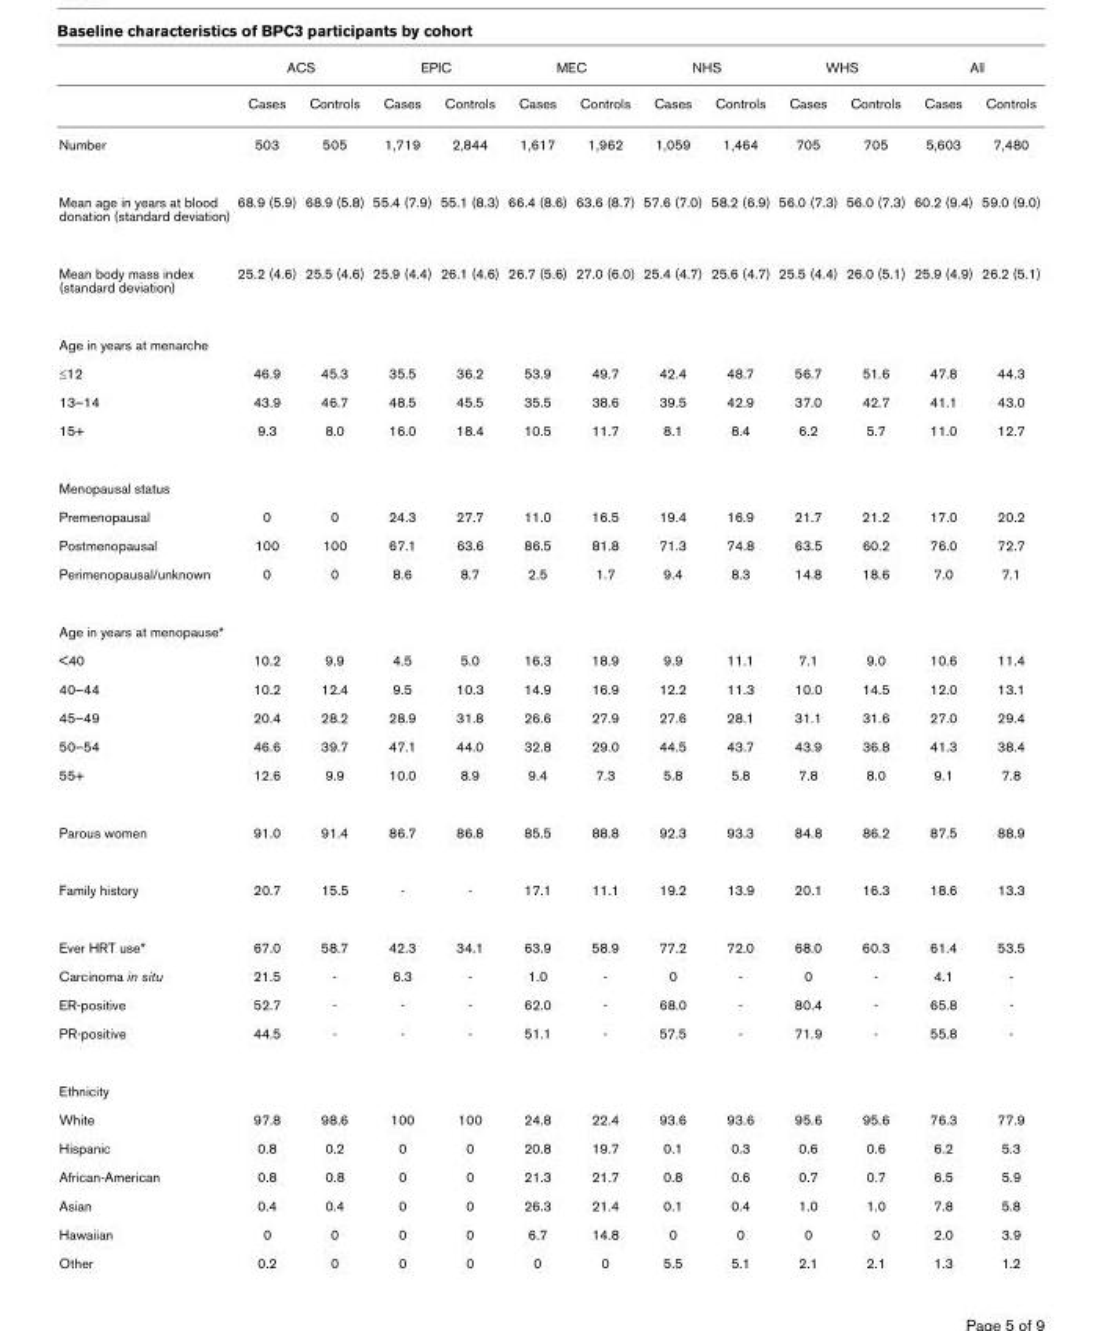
<table><thead><tr><td rowspan="2"></td><td colspan="2">ACS</td><td colspan="2">EPIC</td><td colspan="2">MEC</td><td colspan="2">NHS</td><td colspan="2">WHS</td><td colspan="2">All</td></tr><tr><td>Cases</td><td>Controls</td><td>Cases</td><td>Controls</td><td>Cases</td><td>Controls</td><td>Cases</td><td>Controls</td><td>Cases</td><td>Controls</td><td>Cases</td><td>Controls</td></tr></thead><tbody><tr><td>Number</td><td>503</td><td>505</td><td>1,719</td><td>2,844</td><td>1,617</td><td>1,962</td><td>1,059</td><td>1,464</td><td>705</td><td>705</td><td>5,603</td><td>7,480</td></tr><tr><td>Mean age in years at blood donation (standard deviation)</td><td>68.9 (5.9)</td><td>68.9 (5.8)</td><td>55.4 (7.9)</td><td>55.1 (8.3)</td><td>66.4 (8.6)</td><td>63.6 (8.7)</td><td>57.6 (7.0)</td><td>58.2 (6.9)</td><td>56.0 (7.3)</td><td>56.0 (7.3)</td><td>60.2 (9.4)</td><td>59.0 (9.0)</td></tr><tr><td>Mean body mass index (standard deviation)</td><td>25.2 (4.6)</td><td>25.5 (4.6)</td><td>25.9 (4.4)</td><td>26.1 (4.6)</td><td>26.7 (5.6)</td><td>27.0 (6.0)</td><td>25.4 (4.7)</td><td>25.6 (4.7)</td><td>25.5 (4.4)</td><td>26.0 (5.1)</td><td>25.9 (4.9)</td><td>26.2 (5.1)</td></tr><tr><td colspan="13">Age in years at menarche</td></tr><tr><td>≤12</td><td>46.9</td><td>45.3</td><td>35.5</td><td>36.2</td><td>53.9</td><td>49.7</td><td>42.4</td><td>48.7</td><td>56.7</td><td>51.6</td><td>47.8</td><td>44.3</td></tr><tr><td>13–14</td><td>43.9</td><td>46.7</td><td>48.5</td><td>45.5</td><td>35.5</td><td>38.6</td><td>39.5</td><td>42.9</td><td>37.0</td><td>42.7</td><td>41.1</td><td>43.0</td></tr><tr><td>15+</td><td>9.3</td><td>8.0</td><td>16.0</td><td>18.4</td><td>10.5</td><td>11.7</td><td>8.1</td><td>8.4</td><td>6.2</td><td>5.7</td><td>11.0</td><td>12.7</td></tr><tr><td colspan="13">Menopausal status</td></tr><tr><td>Premenopausal</td><td>0</td><td>0</td><td>24.3</td><td>27.7</td><td>11.0</td><td>16.5</td><td>19.4</td><td>16.9</td><td>21.7</td><td>21.2</td><td>17.0</td><td>20.2</td></tr><tr><td>Postmenopausal</td><td>100</td><td>100</td><td>67.1</td><td>63.6</td><td>86.5</td><td>81.8</td><td>71.3</td><td>74.8</td><td>63.5</td><td>60.2</td><td>76.0</td><td>72.7</td></tr><tr><td>Perimenopausal/unknown</td><td>0</td><td>0</td><td>8.6</td><td>8.7</td><td>2.5</td><td>1.7</td><td>9.4</td><td>8.3</td><td>14.8</td><td>18.6</td><td>7.0</td><td>7.1</td></tr><tr><td colspan="13">Age in years at menopause*</td></tr><tr><td>&lt;40</td><td>10.2</td><td>9.9</td><td>4.5</td><td>5.0</td><td>16.3</td><td>18.9</td><td>9.9</td><td>11.1</td><td>7.1</td><td>9.0</td><td>10.6</td><td>11.4</td></tr><tr><td>40–44</td><td>10.2</td><td>12.4</td><td>9.5</td><td>10.3</td><td>14.9</td><td>16.9</td><td>12.2</td><td>11.3</td><td>10.0</td><td>14.5</td><td>12.0</td><td>13.1</td></tr><tr><td>45–49</td><td>20.4</td><td>28.2</td><td>28.9</td><td>31.8</td><td>26.6</td><td>27.9</td><td>27.6</td><td>28.1</td><td>31.1</td><td>31.6</td><td>27.0</td><td>29.4</td></tr><tr><td>50–54</td><td>46.6</td><td>39.7</td><td>47.1</td><td>44.0</td><td>32.8</td><td>29.0</td><td>44.5</td><td>43.7</td><td>43.9</td><td>36.8</td><td>41.3</td><td>38.4</td></tr><tr><td>55+</td><td>12.6</td><td>9.9</td><td>10.0</td><td>8.9</td><td>9.4</td><td>7.3</td><td>5.8</td><td>5.8</td><td>7.8</td><td>8.0</td><td>9.1</td><td>7.8</td></tr><tr><td>Parous women</td><td>91.0</td><td>91.4</td><td>86.7</td><td>86.8</td><td>85.5</td><td>88.8</td><td>92.3</td><td>93.3</td><td>84.8</td><td>86.2</td><td>87.5</td><td>88.9</td></tr><tr><td>Family history</td><td>20.7</td><td>15.5</td><td>-</td><td>-</td><td>17.1</td><td>11.1</td><td>19.2</td><td>13.9</td><td>20.1</td><td>16.3</td><td>18.6</td><td>13.3</td></tr><tr><td>Ever HRT use*</td><td>67.0</td><td>58.7</td><td>42.3</td><td>34.1</td><td>63.9</td><td>58.9</td><td>77.2</td><td>72.0</td><td>68.0</td><td>60.3</td><td>61.4</td><td>53.5</td></tr><tr><td>Carcinoma in situ</td><td>21.5</td><td>-</td><td>6.3</td><td>-</td><td>1.0</td><td>-</td><td>0</td><td>-</td><td>0</td><td>-</td><td>4.1</td><td>-</td></tr><tr><td>ER-positive</td><td>52.7</td><td>-</td><td>-</td><td>-</td><td>62.0</td><td>-</td><td>68.0</td><td>-</td><td>80.4</td><td>-</td><td>65.8</td><td>-</td></tr><tr><td>PR-positive</td><td>44.5</td><td>-</td><td>-</td><td>-</td><td>51.1</td><td>-</td><td>57.5</td><td>-</td><td>71.9</td><td>-</td><td>55.8</td><td>-</td></tr><tr><td colspan="13">Ethnicity</td></tr><tr><td>White</td><td>97.8</td><td>98.6</td><td>100</td><td>100</td><td>24.8</td><td>22.4</td><td>93.6</td><td>93.6</td><td>95.6</td><td>95.6</td><td>76.3</td><td>77.9</td></tr><tr><td>Hispanic</td><td>0.8</td><td>0.2</td><td>0</td><td>0</td><td>20.8</td><td>19.7</td><td>0.1</td><td>0.3</td><td>0.6</td><td>0.6</td><td>6.2</td><td>5.3</td></tr><tr><td>African-American</td><td>0.8</td><td>0.8</td><td>0</td><td>0</td><td>21.3</td><td>21.7</td><td>0.8</td><td>0.6</td><td>0.7</td><td>0.7</td><td>6.5</td><td>5.9</td></tr><tr><td>Asian</td><td>0.4</td><td>0.4</td><td>0</td><td>0</td><td>26.3</td><td>21.4</td><td>0.1</td><td>0.4</td><td>1.0</td><td>1.0</td><td>7.8</td><td>5.8</td></tr><tr><td>Hawaiian</td><td>0</td><td>0</td><td>0</td><td>0</td><td>6.7</td><td>14.8</td><td>0</td><td>0</td><td>0</td><td>0</td><td>2.0</td><td>3.9</td></tr><tr><td>Other</td><td>0.2</td><td>0</td><td>0</td><td>0</td><td>0</td><td>0</td><td>5.5</td><td>5.1</td><td>2.1</td><td>2.1</td><td>1.3</td><td>1.2</td></tr></tbody></table>